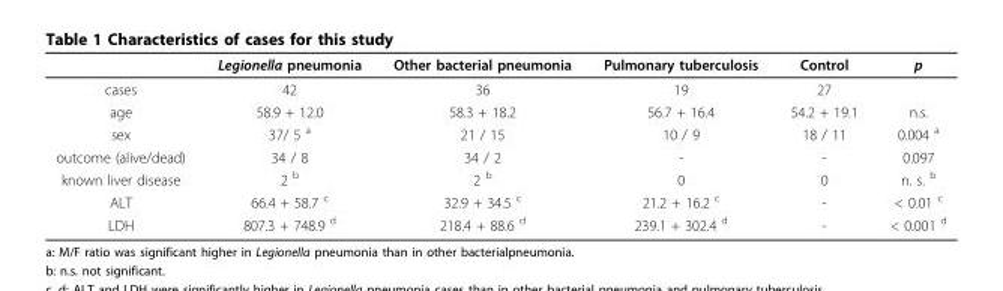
<table><thead><tr><td></td><td>Legionella pneumonia</td><td>Other bacterial pneumonia</td><td>Pulmonary tuberculosis</td><td>Control</td><td>p</td></tr></thead><tbody><tr><td>cases</td><td>42</td><td>36</td><td>19</td><td>27</td><td></td></tr><tr><td>age</td><td>58.9 + 12.0</td><td>58.3 + 18.2</td><td>56.7 + 16.4</td><td>54.2 + 19.1</td><td>n.s.</td></tr><tr><td>sex</td><td>37/ 5 <sup>a</sup></td><td>21 / 15</td><td>10 / 9</td><td>18 / 11</td><td>0.004 <sup>a</sup></td></tr><tr><td>outcome (alive/dead)</td><td>34 / 8</td><td>34 / 2</td><td>-</td><td>-</td><td>0.097</td></tr><tr><td>known liver disease</td><td>2 <sup>b</sup></td><td>2 <sup>b</sup></td><td>0</td><td>0</td><td>n. s. <sup>b</sup></td></tr><tr><td>ALT</td><td>66.4 + 58.7 <sup>c</sup></td><td>32.9 + 34.5 <sup>c</sup></td><td>21.2 + 16.2 <sup>c</sup></td><td>-</td><td>&lt; 0.01 <sup>c</sup></td></tr><tr><td>LDH</td><td>807.3 + 748.9 <sup>d</sup></td><td>218.4 + 88.6 <sup>d</sup></td><td>239.1 + 302.4 <sup>d</sup></td><td>-</td><td>&lt; 0.001 <sup>d</sup></td></tr></tbody></table>